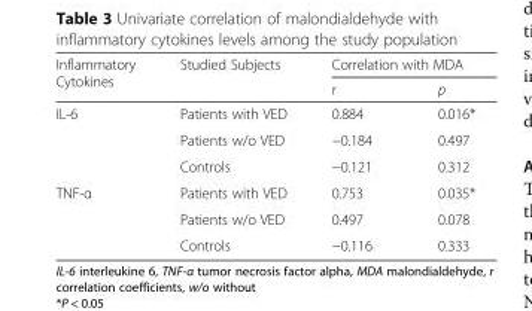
<table><thead><tr><td rowspan="2">Inflammatory Cytokines</td><td rowspan="2">Studied Subjects</td><td colspan="2">Correlation with MDA</td></tr><tr><td>r</td><td>p</td></tr></thead><tbody><tr><td rowspan="3">IL-6</td><td>Patients with VED</td><td>0.884</td><td>0.016*</td></tr><tr><td>Patients w/o VED</td><td>−0.184</td><td>0.497</td></tr><tr><td>Controls</td><td>−0.121</td><td>0.312</td></tr><tr><td rowspan="3">TNF-α</td><td>Patients with VED</td><td>0.753</td><td>0.035*</td></tr><tr><td>Patients w/o VED</td><td>0.497</td><td>0.078</td></tr><tr><td>Controls</td><td>−0.116</td><td>0.333</td></tr></tbody></table>